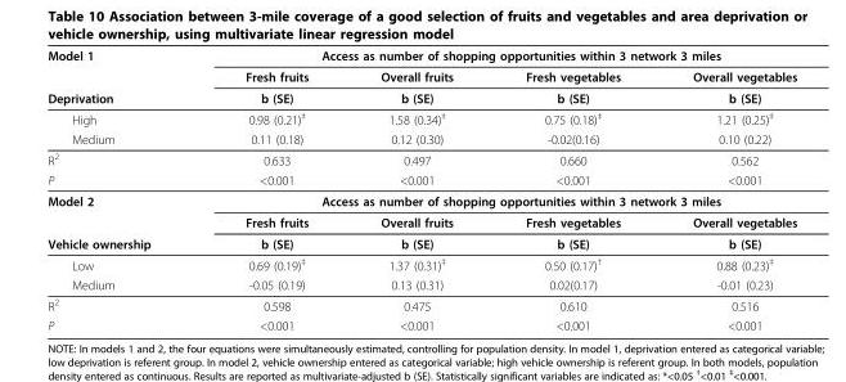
<table><thead><tr><td rowspan="3">Model 1 Deprivation</td><td colspan="4">Access as number of shopping opportunities within 3 network 3 miles</td></tr><tr><td rowspan="2">Fresh fruits b (SE)</td><td rowspan="2">Overall fruits b (SE)</td><td rowspan="2">Fresh vegetables b (SE)</td><td rowspan="2">Overall vegetables b (SE)</td></tr><tr></tr></thead><tbody><tr><td>High</td><td>0.98 (0.21)‡</td><td>1.58 (0.34)‡</td><td>0.75 (0.18)‡</td><td>1.21 (0.25)‡</td></tr><tr><td>Medium</td><td>0.11 (0.18)</td><td>0.12 (0.30)</td><td>-0.02(0.16)</td><td>0.10 (0.22)</td></tr><tr><td>R2</td><td>0.633</td><td>0.497</td><td>0.660</td><td>0.562</td></tr><tr><td>P</td><td>&lt;0.001</td><td>&lt;0.001</td><td>&lt;0.001</td><td>&lt;0.001</td></tr><tr><td rowspan="2">Model 2</td><td colspan="4">Access as number of shopping opportunities within 3 network 3 miles</td></tr><tr><td>Fresh fruits</td><td>Overall fruits</td><td>Fresh vegetables</td><td>Overall vegetables</td></tr><tr><td>Vehicle ownership</td><td>b (SE)</td><td>b (SE)</td><td>b (SE)</td><td>b (SE)</td></tr><tr><td>Low</td><td>0.69 (0.19)‡</td><td>1.37 (0.31)‡</td><td>0.50 (0.17)†</td><td>0.88 (0.23)‡</td></tr><tr><td>Medium</td><td>-0.05 (0.19)</td><td>0.13 (0.31)</td><td>0.02(0.17)</td><td>-0.01 (0.23)</td></tr><tr><td>R2</td><td>0.598</td><td>0.475</td><td>0.610</td><td>0.516</td></tr><tr><td>P</td><td>&lt;0.001</td><td>&lt;0.001</td><td>&lt;0.001</td><td>&lt;0.001</td></tr></tbody></table>